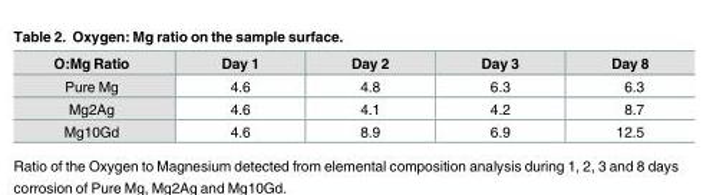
<table><thead><tr><td>O:Mg Ratio</td><td>Day 1</td><td>Day 2</td><td>Day 3</td><td>Day 8</td></tr></thead><tbody><tr><td>Pure Mg</td><td>4.6</td><td>4.8</td><td>6.3</td><td>6.3</td></tr><tr><td>Mg2Ag</td><td>4.6</td><td>4.1</td><td>4.2</td><td>8.7</td></tr><tr><td>Mg10Gd</td><td>4.6</td><td>8.9</td><td>6.9</td><td>12.5</td></tr></tbody></table>